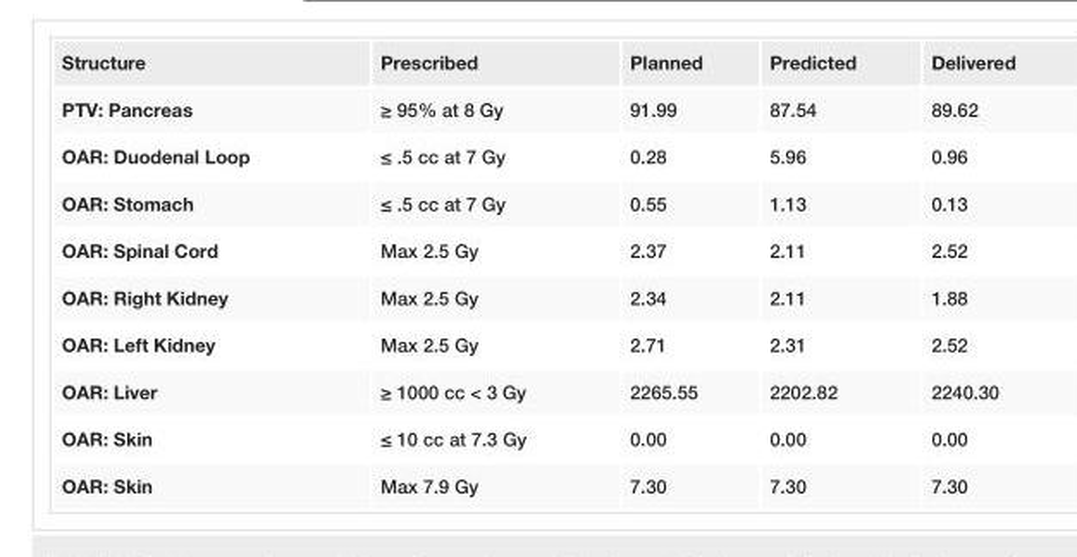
<table><tbody><tr><td>Structure</td><td>Prescribed</td><td>Planned</td><td>Predicted</td><td>Delivered</td></tr><tr><td>PTV: Pancreas</td><td>≥ 95% at 8 Gy</td><td>91.99</td><td>87.54</td><td>89.62</td></tr><tr><td>OAR: Duodenal Loop</td><td>≤ .5 cc at 7 Gy</td><td>0.28</td><td>5.96</td><td>0.96</td></tr><tr><td>OAR: Stomach</td><td>≤ .5 cc at 7 Gy</td><td>0.55</td><td>1.13</td><td>0.13</td></tr><tr><td>OAR: Spinal Cord</td><td>Max 2.5 Gy</td><td>2.37</td><td>2.11</td><td>2.52</td></tr><tr><td>OAR: Right Kidney</td><td>Max 2.5 Gy</td><td>2.34</td><td>2.11</td><td>1.88</td></tr><tr><td>OAR: Left Kidney</td><td>Max 2.5 Gy</td><td>2.71</td><td>2.31</td><td>2.52</td></tr><tr><td>OAR: Liver</td><td>≥ 1000 cc &lt; 3 Gy</td><td>2265.55</td><td>2202.82</td><td>2240.30</td></tr><tr><td>OAR: Skin</td><td>≤ 10 cc at 7.3 Gy</td><td>0.00</td><td>0.00</td><td>0.00</td></tr><tr><td>OAR: Skin</td><td>Max 7.9 Gy</td><td>7.30</td><td>7.30</td><td>7.30</td></tr></tbody></table>